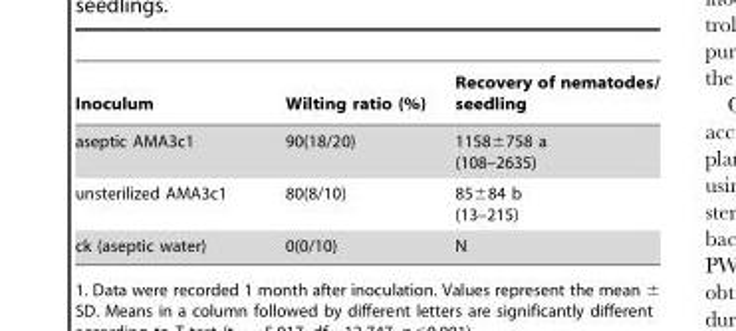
<table><thead><tr><td>Inoculum</td><td>Wilting ratio (%)</td><td>Recovery of nematodes/ seedling</td></tr></thead><tbody><tr><td>aseptic AMA3c1</td><td>90(18/20)</td><td>1158±758 a (108–2635)</td></tr><tr><td>unsterilized AMA3c1</td><td>80(8/10)</td><td>85±84 b (13–215)</td></tr><tr><td>ck (aseptic water)</td><td>0(0/10)</td><td>N</td></tr></tbody></table>